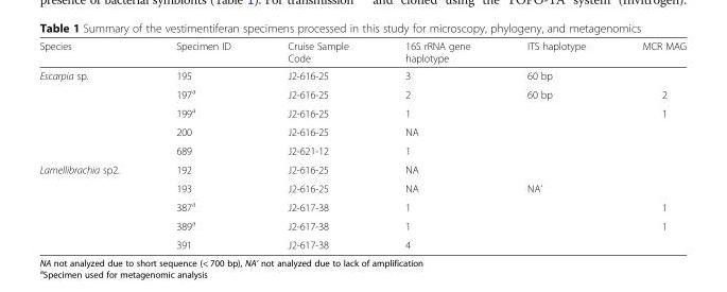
<table><thead><tr><td>Species</td><td>Specimen ID</td><td>Cruise Sample Code</td><td>16S rRNA gene haplotype</td><td>ITS haplotype</td><td>MCR MAG</td></tr></thead><tbody><tr><td rowspan="5">Escarpia sp.</td><td>195</td><td>J2-616-25</td><td>3</td><td>60 bp</td><td></td></tr><tr><td>197<sup>a</sup></td><td>J2-616-25</td><td>2</td><td>60 bp</td><td>2</td></tr><tr><td>199<sup>a</sup></td><td>J2-616-25</td><td>1</td><td></td><td>1</td></tr><tr><td>200</td><td>J2-616-25</td><td>NA</td><td></td><td></td></tr><tr><td>689</td><td>J2-621-12</td><td>1</td><td></td><td></td></tr><tr><td rowspan="5">Lamellibrachia sp2.</td><td>192</td><td>J2-616-25</td><td>NA</td><td></td><td></td></tr><tr><td>193</td><td>J2-616-25</td><td>NA</td><td>NA’</td><td></td></tr><tr><td>387<sup>a</sup></td><td>J2-617-38</td><td>1</td><td></td><td>1</td></tr><tr><td>389<sup>a</sup></td><td>J2-617-38</td><td>1</td><td></td><td>1</td></tr><tr><td>391</td><td>J2-617-38</td><td>4</td><td></td><td></td></tr></tbody></table>